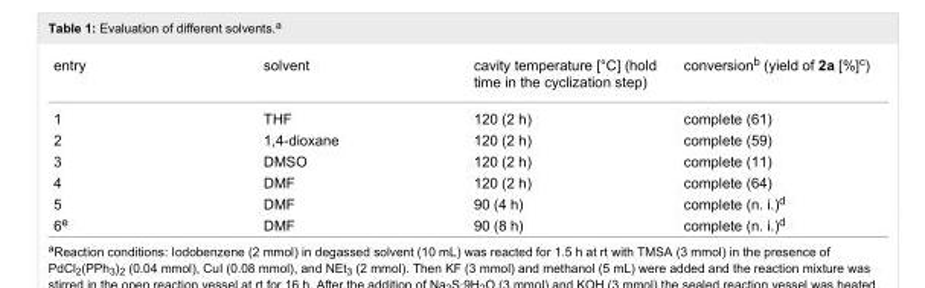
<table><tbody><tr><td>entry</td><td>solvent</td><td>cavity temperature [°C] (hold time in the cyclization step)</td><td>conversion<sup>b</sup> (yield of 2a [%]<sup>c</sup>)</td></tr><tr><td>1</td><td>THF</td><td>120 (2 h)</td><td>complete (61)</td></tr><tr><td>2</td><td>1,4-dioxane</td><td>120 (2 h)</td><td>complete (59)</td></tr><tr><td>3</td><td>DMSO</td><td>120 (2 h)</td><td>complete (11)</td></tr><tr><td>4</td><td>DMF</td><td>120 (2 h)</td><td>complete (64)</td></tr><tr><td>5</td><td>DMF</td><td>90 (4 h)</td><td>complete (n. i.)<sup>d</sup></td></tr><tr><td>6<sup>e</sup></td><td>DMF</td><td>90 (8 h)</td><td>complete (n. i.)<sup>d</sup></td></tr></tbody></table>